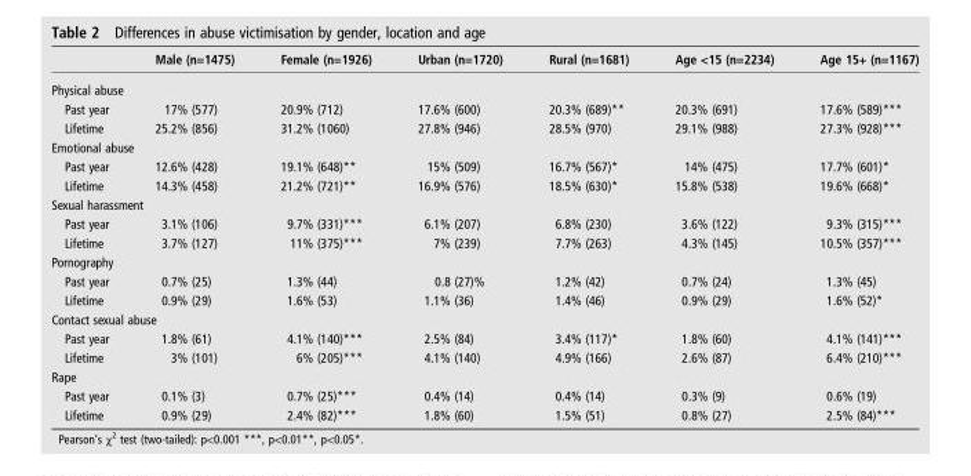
<table><thead><tr><td></td><td>Male (n=1475)</td><td>Female (n=1926)</td><td>Urban (n=1720)</td><td>Rural (n=1681)</td><td>Age &lt;15 (n=2234)</td><td>Age 15+ (n=1167)</td></tr></thead><tbody><tr><td colspan="7">Physical abuse</td></tr><tr><td>Past year</td><td>17% (577)</td><td>20.9% (712)</td><td>17.6% (600)</td><td>20.3% (689)**</td><td>20.3% (691)</td><td>17.6% (589)***</td></tr><tr><td>Lifetime</td><td>25.2% (856)</td><td>31.2% (1060)</td><td>27.8% (946)</td><td>28.5% (970)</td><td>29.1% (988)</td><td>27.3% (928)***</td></tr><tr><td colspan="7">Emotional abuse</td></tr><tr><td>Past year</td><td>12.6% (428)</td><td>19.1% (648)**</td><td>15% (509)</td><td>16.7% (567)*</td><td>14% (475)</td><td>17.7% (601)*</td></tr><tr><td>Lifetime</td><td>14.3% (458)</td><td>21.2% (721)**</td><td>16.9% (576)</td><td>18.5% (630)*</td><td>15.8% (538)</td><td>19.6% (668)*</td></tr><tr><td colspan="7">Sexual harassment</td></tr><tr><td>Past year</td><td>3.1% (106)</td><td>9.7% (331)***</td><td>6.1% (207)</td><td>6.8% (230)</td><td>3.6% (122)</td><td>9.3% (315)***</td></tr><tr><td>Lifetime</td><td>3.7% (127)</td><td>11% (375)***</td><td>7% (239)</td><td>7.7% (263)</td><td>4.3% (145)</td><td>10.5% (357)***</td></tr><tr><td colspan="7">Pornography</td></tr><tr><td>Past year</td><td>0.7% (25)</td><td>1.3% (44)</td><td>0.8 (27)%</td><td>1.2% (42)</td><td>0.7% (24)</td><td>1.3% (45)</td></tr><tr><td>Lifetime</td><td>0.9% (29)</td><td>1.6% (53)</td><td>1.1% (36)</td><td>1.4% (46)</td><td>0.9% (29)</td><td>1.6% (52)*</td></tr><tr><td colspan="7">Contact sexual abuse</td></tr><tr><td>Past year</td><td>1.8% (61)</td><td>4.1% (140)***</td><td>2.5% (84)</td><td>3.4% (117)*</td><td>1.8% (60)</td><td>4.1% (141)***</td></tr><tr><td>Lifetime</td><td>3% (101)</td><td>6% (205)***</td><td>4.1% (140)</td><td>4.9% (166)</td><td>2.6% (87)</td><td>6.4% (210)***</td></tr><tr><td colspan="7">Rape</td></tr><tr><td>Past year</td><td>0.1% (3)</td><td>0.7% (25)***</td><td>0.4% (14)</td><td>0.4% (14)</td><td>0.3% (9)</td><td>0.6% (19)</td></tr><tr><td>Lifetime</td><td>0.9% (29)</td><td>2.4% (82)***</td><td>1.8% (60)</td><td>1.5% (51)</td><td>0.8% (27)</td><td>2.5% (84)***</td></tr></tbody></table>